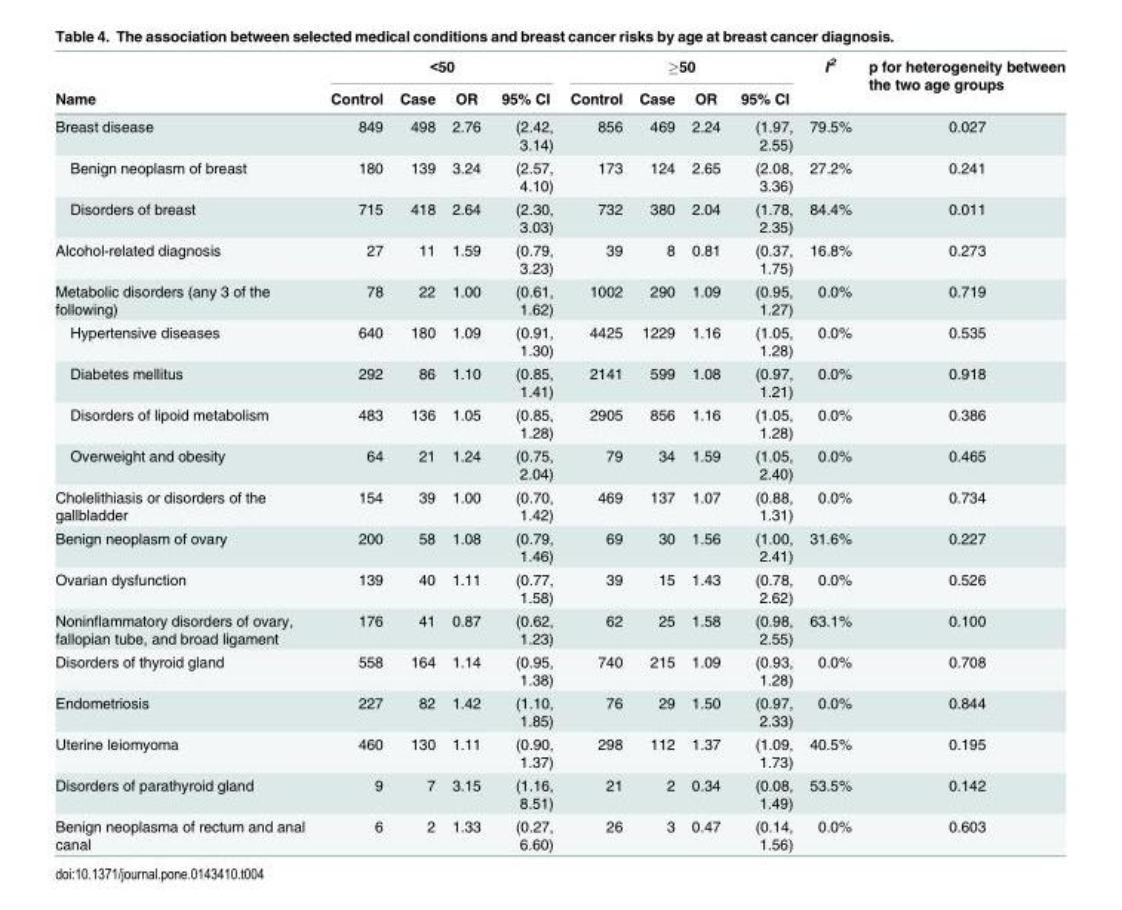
<table><thead><tr><td rowspan="2">Name</td><td colspan="4">&lt;50</td><td colspan="4">≥50</td><td rowspan="2">I<sup>2</sup></td><td rowspan="2">p for heterogeneity between the two age groups</td></tr><tr><td>Control</td><td>Case</td><td>OR</td><td>95% CI</td><td>Control</td><td>Case</td><td>OR</td><td>95% CI</td></tr></thead><tbody><tr><td>Breast disease</td><td>849</td><td>498</td><td>2.76</td><td>(2.42, 3.14)</td><td>856</td><td>469</td><td>2.24</td><td>(1.97, 2.55)</td><td>79.5%</td><td>0.027</td></tr><tr><td>Benign neoplasm of breast</td><td>180</td><td>139</td><td>3.24</td><td>(2.57, 4.10)</td><td>173</td><td>124</td><td>2.65</td><td>(2.08, 3.36)</td><td>27.2%</td><td>0.241</td></tr><tr><td>Disorders of breast</td><td>715</td><td>418</td><td>2.64</td><td>(2.30, 3.03)</td><td>732</td><td>380</td><td>2.04</td><td>(1.78, 2.35)</td><td>84.4%</td><td>0.011</td></tr><tr><td>Alcohol-related diagnosis</td><td>27</td><td>11</td><td>1.59</td><td>(0.79, 3.23)</td><td>39</td><td>8</td><td>0.81</td><td>(0.37, 1.75)</td><td>16.8%</td><td>0.273</td></tr><tr><td>Metabolic disorders (any 3 of the following)</td><td>78</td><td>22</td><td>1.00</td><td>(0.61, 1.62)</td><td>1002</td><td>290</td><td>1.09</td><td>(0.95, 1.27)</td><td>0.0%</td><td>0.719</td></tr><tr><td>Hypertensive diseases</td><td>640</td><td>180</td><td>1.09</td><td>(0.91, 1.30)</td><td>4425</td><td>1229</td><td>1.16</td><td>(1.05, 1.28)</td><td>0.0%</td><td>0.535</td></tr><tr><td>Diabetes mellitus</td><td>292</td><td>86</td><td>1.10</td><td>(0.85, 1.41)</td><td>2141</td><td>599</td><td>1.08</td><td>(0.97, 1.21)</td><td>0.0%</td><td>0.918</td></tr><tr><td>Disorders of lipoid metabolism</td><td>483</td><td>136</td><td>1.05</td><td>(0.85, 1.28)</td><td>2905</td><td>856</td><td>1.16</td><td>(1.05, 1.28)</td><td>0.0%</td><td>0.386</td></tr><tr><td>Overweight and obesity</td><td>64</td><td>21</td><td>1.24</td><td>(0.75, 2.04)</td><td>79</td><td>34</td><td>1.59</td><td>(1.05, 2.40)</td><td>0.0%</td><td>0.465</td></tr><tr><td>Cholelithiasis or disorders of the gallbladder</td><td>154</td><td>39</td><td>1.00</td><td>(0.70, 1.42)</td><td>469</td><td>137</td><td>1.07</td><td>(0.88, 1.31)</td><td>0.0%</td><td>0.734</td></tr><tr><td>Benign neoplasm of ovary</td><td>200</td><td>58</td><td>1.08</td><td>(0.79, 1.46)</td><td>69</td><td>30</td><td>1.56</td><td>(1.00, 2.41)</td><td>31.6%</td><td>0.227</td></tr><tr><td>Ovarian dysfunction</td><td>139</td><td>40</td><td>1.11</td><td>(0.77, 1.58)</td><td>39</td><td>15</td><td>1.43</td><td>(0.78, 2.62)</td><td>0.0%</td><td>0.526</td></tr><tr><td>Noninflammatory disorders of ovary, fallopian tube, and broad ligament</td><td>176</td><td>41</td><td>0.87</td><td>(0.62, 1.23)</td><td>62</td><td>25</td><td>1.58</td><td>(0.98, 2.55)</td><td>63.1%</td><td>0.100</td></tr><tr><td>Disorders of thyroid gland</td><td>558</td><td>164</td><td>1.14</td><td>(0.95, 1.38)</td><td>740</td><td>215</td><td>1.09</td><td>(0.93, 1.28)</td><td>0.0%</td><td>0.708</td></tr><tr><td>Endometriosis</td><td>227</td><td>82</td><td>1.42</td><td>(1.10, 1.85)</td><td>76</td><td>29</td><td>1.50</td><td>(0.97, 2.33)</td><td>0.0%</td><td>0.844</td></tr><tr><td>Uterine leiomyoma</td><td>460</td><td>130</td><td>1.11</td><td>(0.90, 1.37)</td><td>298</td><td>112</td><td>1.37</td><td>(1.09, 1.73)</td><td>40.5%</td><td>0.195</td></tr><tr><td>Disorders of parathyroid gland</td><td>9</td><td>7</td><td>3.15</td><td>(1.16, 8.51)</td><td>21</td><td>2</td><td>0.34</td><td>(0.08, 1.49)</td><td>53.5%</td><td>0.142</td></tr><tr><td>Benign neoplasma of rectum and anal canal</td><td>6</td><td>2</td><td>1.33</td><td>(0.27, 6.60)</td><td>26</td><td>3</td><td>0.47</td><td>(0.14, 1.56)</td><td>0.0%</td><td>0.603</td></tr></tbody></table>